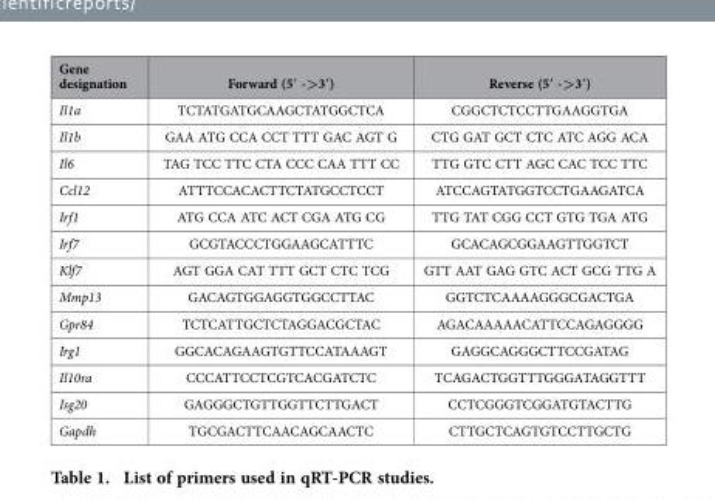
<table><thead><tr><td>Gene designation</td><td>Forward (5′ -&gt;3′)</td><td>Reverse (5′ -&gt;3′)</td></tr></thead><tbody><tr><td>Il1a</td><td>TCTATGATGCAAGCTATGGCTCA</td><td>CGGCTCTCCTTGAAGGTGA</td></tr><tr><td>Il1b</td><td>GAA ATG CCA CCT TTT GAC AGT G</td><td>CTG GAT GCT CTC ATC AGG ACA</td></tr><tr><td>Il6</td><td>TAG TCC TTC CTA CCC CAA TTT CC</td><td>TTG GTC CTT AGC CAC TCC TTC</td></tr><tr><td>Ccl12</td><td>ATTTCCACACTTCTATGCCTCCT</td><td>ATCCAGTATGGTCCTGAAGATCA</td></tr><tr><td>Irf1</td><td>ATG CCA ATC ACT CGA ATG CG</td><td>TTG TAT CGG CCT GTG TGA ATG</td></tr><tr><td>Irf7</td><td>GCGTACCCTGGAAGCATTTC</td><td>GCACAGCGGAAGTTGGTCT</td></tr><tr><td>Klf7</td><td>AGT GGA CAT TTT GCT CTC TCG</td><td>GTT AAT GAG GTC ACT GCG TTG A</td></tr><tr><td>Mmp13</td><td>GACAGTGGAGGTGGCCTTAC</td><td>GGTCTCAAAAGGGCGACTGA</td></tr><tr><td>Gpr84</td><td>TCTCATTGCTCTAGGACGCTAC</td><td>AGACAAAAACATTCCAGAGGGG</td></tr><tr><td>Irg1</td><td>GGCACAGAAGTGTTCCATAAAGT</td><td>GAGGCAGGGCTTCCGATAG</td></tr><tr><td>Il10ra</td><td>CCCATTCCTCGTCACGATCTC</td><td>TCAGACTGGTTTGGGATAGGTTT</td></tr><tr><td>Isg20</td><td>GAGGGCTGTTGGTTCTTGACT</td><td>CCTCGGGTCGGATGTACTTG</td></tr><tr><td>Gapdh</td><td>TGCGACTTCAACAGCAACTC</td><td>CTTGCTCAGTGTCCTTGCTG</td></tr></tbody></table>